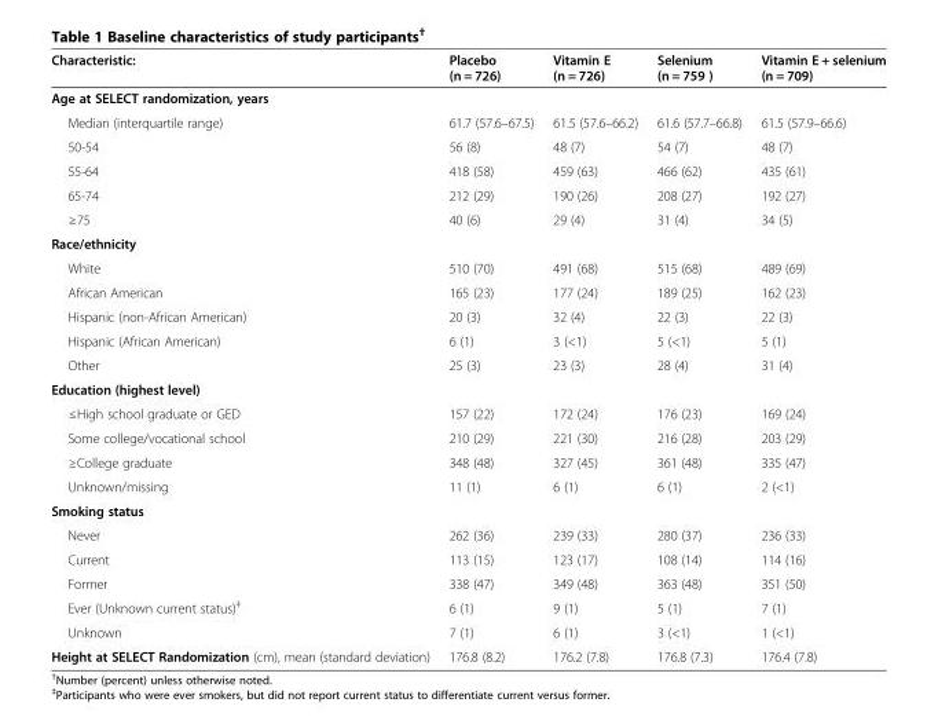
<table><thead><tr><td>Characteristic:</td><td>Placebo (n = 726)</td><td>Vitamin E (n = 726)</td><td>Selenium (n = 759 )</td><td>Vitamin E + selenium (n = 709)</td></tr></thead><tbody><tr><td colspan="5">Age at SELECT randomization, years</td></tr><tr><td>Median (interquartile range)</td><td>61.7 (57.6–67.5)</td><td>61.5 (57.6–66.2)</td><td>61.6 (57.7–66.8)</td><td>61.5 (57.9–66.6)</td></tr><tr><td>50-54</td><td>56 (8)</td><td>48 (7)</td><td>54 (7)</td><td>48 (7)</td></tr><tr><td>55-64</td><td>418 (58)</td><td>459 (63)</td><td>466 (62)</td><td>435 (61)</td></tr><tr><td>65-74</td><td>212 (29)</td><td>190 (26)</td><td>208 (27)</td><td>192 (27)</td></tr><tr><td>≥75</td><td>40 (6)</td><td>29 (4)</td><td>31 (4)</td><td>34 (5)</td></tr><tr><td colspan="5">Race/ethnicity</td></tr><tr><td>White</td><td>510 (70)</td><td>491 (68)</td><td>515 (68)</td><td>489 (69)</td></tr><tr><td>African American</td><td>165 (23)</td><td>177 (24)</td><td>189 (25)</td><td>162 (23)</td></tr><tr><td>Hispanic (non-African American)</td><td>20 (3)</td><td>32 (4)</td><td>22 (3)</td><td>22 (3)</td></tr><tr><td>Hispanic (African American)</td><td>6 (1)</td><td>3 (&lt;1)</td><td>5 (&lt;1)</td><td>5 (1)</td></tr><tr><td>Other</td><td>25 (3)</td><td>23 (3)</td><td>28 (4)</td><td>31 (4)</td></tr><tr><td colspan="5">Education (highest level)</td></tr><tr><td>≤High school graduate or GED</td><td>157 (22)</td><td>172 (24)</td><td>176 (23)</td><td>169 (24)</td></tr><tr><td>Some college/vocational school</td><td>210 (29)</td><td>221 (30)</td><td>216 (28)</td><td>203 (29)</td></tr><tr><td>≥College graduate</td><td>348 (48)</td><td>327 (45)</td><td>361 (48)</td><td>335 (47)</td></tr><tr><td>Unknown/missing</td><td>11 (1)</td><td>6 (1)</td><td>6 (1)</td><td>2 (&lt;1)</td></tr><tr><td colspan="5">Smoking status</td></tr><tr><td>Never</td><td>262 (36)</td><td>239 (33)</td><td>280 (37)</td><td>236 (33)</td></tr><tr><td>Current</td><td>113 (15)</td><td>123 (17)</td><td>108 (14)</td><td>114 (16)</td></tr><tr><td>Former</td><td>338 (47)</td><td>349 (48)</td><td>363 (48)</td><td>351 (50)</td></tr><tr><td>Ever (Unknown current status)<sup>‡</sup></td><td>6 (1)</td><td>9 (1)</td><td>5 (1)</td><td>7 (1)</td></tr><tr><td>Unknown</td><td>7 (1)</td><td>6 (1)</td><td>3 (&lt;1)</td><td>1 (&lt;1)</td></tr><tr><td>Height at SELECT Randomization (cm), mean (standard deviation)</td><td>176.8 (8.2)</td><td>176.2 (7.8)</td><td>176.8 (7.3)</td><td>176.4 (7.8)</td></tr></tbody></table>